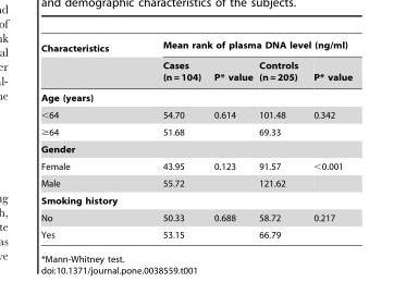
<table><thead><tr><td rowspan="2">Characteristics</td><td colspan="4">Mean rank of plasma DNA level (ng/ml)</td></tr><tr><td>Cases (n = 104)</td><td>P* value</td><td>Controls (n = 205)</td><td>P* value</td></tr></thead><tbody><tr><td colspan="5">Age (years)</td></tr><tr><td>&lt;64</td><td>54.70</td><td>0.614</td><td>101.48</td><td>0.342</td></tr><tr><td>≥64</td><td>51.68</td><td></td><td>69.33</td><td></td></tr><tr><td colspan="5">Gender</td></tr><tr><td>Female</td><td>43.95</td><td>0.123</td><td>91.57</td><td>&lt;0.001</td></tr><tr><td>Male</td><td>55.72</td><td></td><td>121.62</td><td></td></tr><tr><td colspan="5">Smoking history</td></tr><tr><td>No</td><td>50.33</td><td>0.688</td><td>58.72</td><td>0.217</td></tr><tr><td>Yes</td><td>53.15</td><td></td><td>66.79</td><td></td></tr></tbody></table>